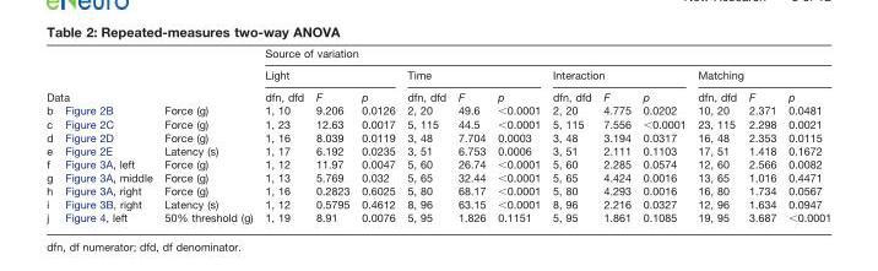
<table><thead><tr><td rowspan="3" colspan="3">Data</td><td colspan="12">Source of variation</td></tr><tr><td colspan="3">Light</td><td colspan="3">Time</td><td colspan="3">Interaction</td><td colspan="3">Matching</td></tr><tr><td rowspan="2">dfn, dfd 1, 10</td><td rowspan="2">F 9.206</td><td rowspan="2">p 0.0126</td><td rowspan="2">dfn, dfd 2, 20</td><td rowspan="2">F 49.6</td><td rowspan="2">p &lt;0.0001</td><td rowspan="2">dfn, dfd 2, 20</td><td rowspan="2">F 4.775</td><td rowspan="2">p 0.0202</td><td rowspan="2">dfn, dfd 10, 20</td><td rowspan="2">F 2.371</td><td rowspan="2">p 0.0481</td></tr><tr><td>b</td><td>Figure 2B</td><td>Force (g)</td></tr></thead><tbody><tr><td>c</td><td>Figure 2C</td><td>Force (g)</td><td>1, 23</td><td>12.63</td><td>0.0017</td><td>5, 115</td><td>44.5</td><td>&lt;0.0001</td><td>5, 115</td><td>7.556</td><td>&lt;0.0001</td><td>23, 115</td><td>2.298</td><td>0.0021</td></tr><tr><td>d</td><td>Figure 2D</td><td>Force (g)</td><td>1, 16</td><td>8.039</td><td>0.0119</td><td>3, 48</td><td>7.704</td><td>0.0003</td><td>3, 48</td><td>3.194</td><td>0.0317</td><td>16, 48</td><td>2.353</td><td>0.0115</td></tr><tr><td>e</td><td>Figure 2E</td><td>Latency (s)</td><td>1, 17</td><td>6.192</td><td>0.0235</td><td>3, 51</td><td>6.753</td><td>0.0006</td><td>3, 51</td><td>2.111</td><td>0.1103</td><td>17, 51</td><td>1.418</td><td>0.1672</td></tr><tr><td>f</td><td>Figure 3A, left</td><td>Force (g)</td><td>1, 12</td><td>11.97</td><td>0.0047</td><td>5, 60</td><td>26.74</td><td>&lt;0.0001</td><td>5, 60</td><td>2.285</td><td>0.0574</td><td>12, 60</td><td>2.566</td><td>0.0082</td></tr><tr><td>g</td><td>Figure 3A, middle</td><td>Force (g)</td><td>1, 13</td><td>5.769</td><td>0.032</td><td>5, 65</td><td>32.44</td><td>&lt;0.0001</td><td>5, 65</td><td>4.424</td><td>0.0016</td><td>13, 65</td><td>1.016</td><td>0.4471</td></tr><tr><td>h</td><td>Figure 3A, right</td><td>Force (g)</td><td>1, 16</td><td>0.2823</td><td>0.6025</td><td>5, 80</td><td>68.17</td><td>&lt;0.0001</td><td>5, 80</td><td>4.293</td><td>0.0016</td><td>16, 80</td><td>1.734</td><td>0.0567</td></tr><tr><td>i</td><td>Figure 3B, right</td><td>Latency (s)</td><td>1, 12</td><td>0.5795</td><td>0.4612</td><td>8, 96</td><td>63.15</td><td>&lt;0.0001</td><td>8, 96</td><td>2.216</td><td>0.0327</td><td>12, 96</td><td>1.634</td><td>0.0947</td></tr><tr><td>j</td><td>Figure 4, left</td><td>50% threshold (g)</td><td>1, 19</td><td>8.91</td><td>0.0076</td><td>5, 95</td><td>1.826</td><td>0.1151</td><td>5, 95</td><td>1.861</td><td>0.1085</td><td>19, 95</td><td>3.687</td><td>&lt;0.0001</td></tr></tbody></table>